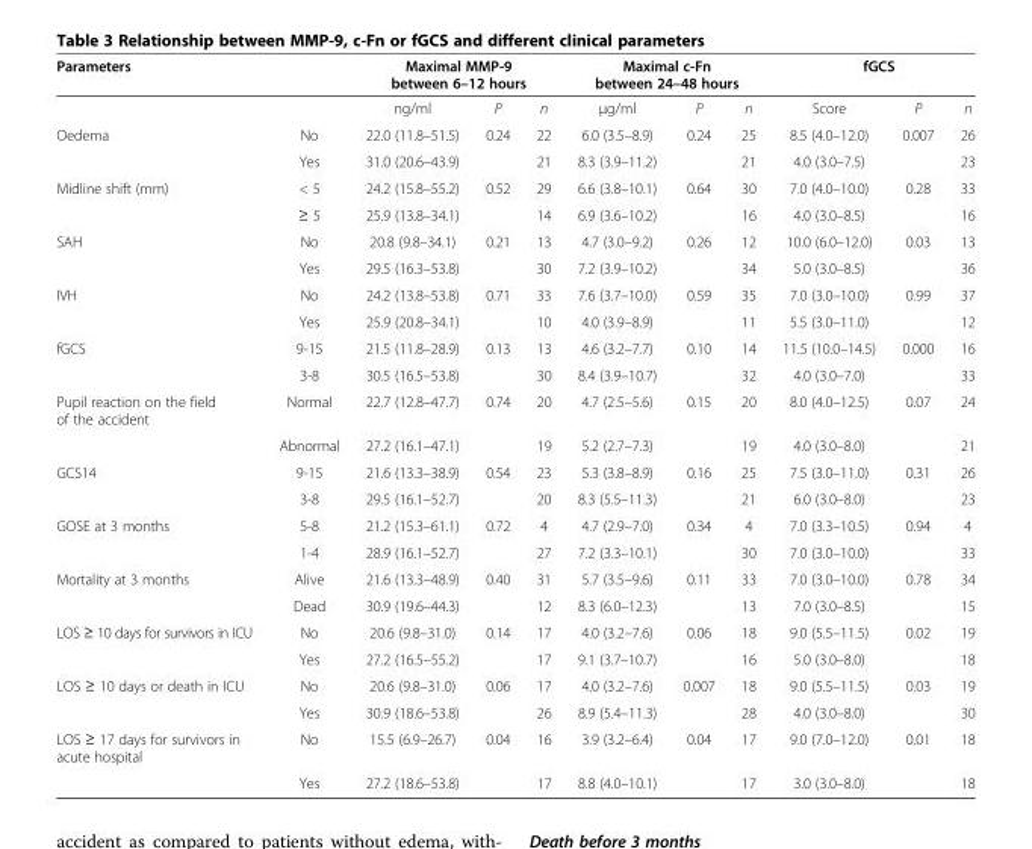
<table><thead><tr><td rowspan="2">Parameters</td><td rowspan="2"></td><td colspan="3">Maximal MMP-9 between 6–12 hours</td><td colspan="3">Maximal c-Fn between 24–48 hours</td><td colspan="3">fGCS</td></tr><tr><td>ng/ml</td><td>P</td><td>n</td><td>μg/ml</td><td>P</td><td>n</td><td>Score</td><td>P</td><td>n</td></tr></thead><tbody><tr><td rowspan="2">Oedema</td><td>No</td><td>22.0 (11.8–51.5)</td><td>0.24</td><td>22</td><td>6.0 (3.5–8.9)</td><td>0.24</td><td>25</td><td>8.5 (4.0–12.0)</td><td>0.007</td><td>26</td></tr><tr><td>Yes</td><td>31.0 (20.6–43.9)</td><td></td><td>21</td><td>8.3 (3.9–11.2)</td><td></td><td>21</td><td>4.0 (3.0–7.5)</td><td></td><td>23</td></tr><tr><td rowspan="2">Midline shift (mm)</td><td>&lt; 5</td><td>24.2 (15.8–55.2)</td><td>0.52</td><td>29</td><td>6.6 (3.8–10.1)</td><td>0.64</td><td>30</td><td>7.0 (4.0–10.0)</td><td>0.28</td><td>33</td></tr><tr><td>≥ 5</td><td>25.9 (13.8–34.1)</td><td></td><td>14</td><td>6.9 (3.6–10.2)</td><td></td><td>16</td><td>4.0 (3.0–8.5)</td><td></td><td>16</td></tr><tr><td rowspan="2">SAH</td><td>No</td><td>20.8 (9.8–34.1)</td><td>0.21</td><td>13</td><td>4.7 (3.0–9.2)</td><td>0.26</td><td>12</td><td>10.0 (6.0–12.0)</td><td>0.03</td><td>13</td></tr><tr><td>Yes</td><td>29.5 (16.3–53.8)</td><td></td><td>30</td><td>7.2 (3.9–10.2)</td><td></td><td>34</td><td>5.0 (3.0–8.5)</td><td></td><td>36</td></tr><tr><td rowspan="2">IVH</td><td>No</td><td>24.2 (13.8–53.8)</td><td>0.71</td><td>33</td><td>7.6 (3.7–10.0)</td><td>0.59</td><td>35</td><td>7.0 (3.0–10.0)</td><td>0.99</td><td>37</td></tr><tr><td>Yes</td><td>25.9 (20.8–34.1)</td><td></td><td>10</td><td>4.0 (3.9–8.9)</td><td></td><td>11</td><td>5.5 (3.0–11.0)</td><td></td><td>12</td></tr><tr><td rowspan="2">fGCS</td><td>9-15</td><td>21.5 (11.8–28.9)</td><td>0.13</td><td>13</td><td>4.6 (3.2–7.7)</td><td>0.10</td><td>14</td><td>11.5 (10.0–14.5)</td><td>0.000</td><td>16</td></tr><tr><td>3-8</td><td>30.5 (16.5–53.8)</td><td></td><td>30</td><td>8.4 (3.9–10.7)</td><td></td><td>32</td><td>4.0 (3.0–7.0)</td><td></td><td>33</td></tr><tr><td rowspan="2">Pupil reaction on the field of the accident</td><td>Normal</td><td>22.7 (12.8–47.7)</td><td>0.74</td><td>20</td><td>4.7 (2.5–5.6)</td><td>0.15</td><td>20</td><td>8.0 (4.0–12.5)</td><td>0.07</td><td>24</td></tr><tr><td>Abnormal</td><td>27.2 (16.1–47.1)</td><td></td><td>19</td><td>5.2 (2.7–7.3)</td><td></td><td>19</td><td>4.0 (3.0–8.0)</td><td></td><td>21</td></tr><tr><td rowspan="2">GCS14</td><td>9-15</td><td>21.6 (13.3–38.9)</td><td>0.54</td><td>23</td><td>5.3 (3.8–8.9)</td><td>0.16</td><td>25</td><td>7.5 (3.0–11.0)</td><td>0.31</td><td>26</td></tr><tr><td>3-8</td><td>29.5 (16.1–52.7)</td><td></td><td>20</td><td>8.3 (5.5–11.3)</td><td></td><td>21</td><td>6.0 (3.0–8.0)</td><td></td><td>23</td></tr><tr><td rowspan="2">GOSE at 3 months</td><td>5-8</td><td>21.2 (15.3–61.1)</td><td>0.72</td><td>4</td><td>4.7 (2.9–7.0)</td><td>0.34</td><td>4</td><td>7.0 (3.3–10.5)</td><td>0.94</td><td>4</td></tr><tr><td>1-4</td><td>28.9 (16.1–52.7)</td><td></td><td>27</td><td>7.2 (3.3–10.1)</td><td></td><td>30</td><td>7.0 (3.0–10.0)</td><td></td><td>33</td></tr><tr><td rowspan="2">Mortality at 3 months</td><td>Alive</td><td>21.6 (13.3–48.9)</td><td>0.40</td><td>31</td><td>5.7 (3.5–9.6)</td><td>0.11</td><td>33</td><td>7.0 (3.0–10.0)</td><td>0.78</td><td>34</td></tr><tr><td>Dead</td><td>30.9 (19.6–44.3)</td><td></td><td>12</td><td>8.3 (6.0–12.3)</td><td></td><td>13</td><td>7.0 (3.0–8.5)</td><td></td><td>15</td></tr><tr><td rowspan="2">LOS ≥ 10 days for survivors in ICU</td><td>No</td><td>20.6 (9.8–31.0)</td><td>0.14</td><td>17</td><td>4.0 (3.2–7.6)</td><td>0.06</td><td>18</td><td>9.0 (5.5–11.5)</td><td>0.02</td><td>19</td></tr><tr><td>Yes</td><td>27.2 (16.5–55.2)</td><td></td><td>17</td><td>9.1 (3.7–10.7)</td><td></td><td>16</td><td>5.0 (3.0–8.0)</td><td></td><td>18</td></tr><tr><td rowspan="2">LOS ≥ 10 days or death in ICU</td><td>No</td><td>20.6 (9.8–31.0)</td><td>0.06</td><td>17</td><td>4.0 (3.2–7.6)</td><td>0.007</td><td>18</td><td>9.0 (5.5–11.5)</td><td>0.03</td><td>19</td></tr><tr><td>Yes</td><td>30.9 (18.6–53.8)</td><td></td><td>26</td><td>8.9 (5.4–11.3)</td><td></td><td>28</td><td>4.0 (3.0–8.0)</td><td></td><td>30</td></tr><tr><td rowspan="2">LOS ≥ 17 days for survivors in acute hospital</td><td>No</td><td>15.5 (6.9–26.7)</td><td>0.04</td><td>16</td><td>3.9 (3.2–6.4)</td><td>0.04</td><td>17</td><td>9.0 (7.0–12.0)</td><td>0.01</td><td>18</td></tr><tr><td>Yes</td><td>27.2 (18.6–53.8)</td><td></td><td>17</td><td>8.8 (4.0–10.1)</td><td></td><td>17</td><td>3.0 (3.0–8.0)</td><td></td><td>18</td></tr></tbody></table>